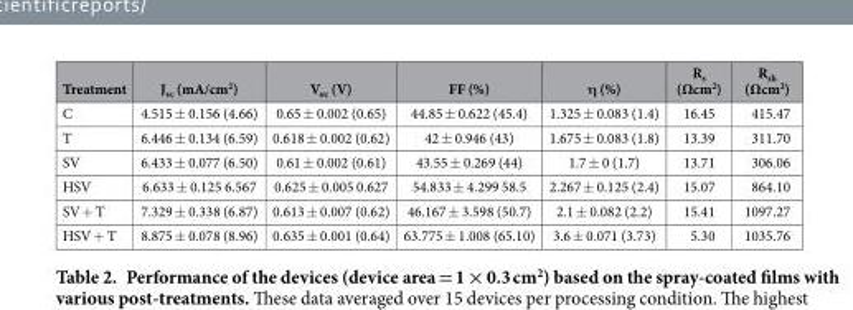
<table><thead><tr><td>Treatment</td><td>J<sub>sc</sub> (mA/cm<sup>2</sup>)</td><td>V<sub>oc</sub> (V)</td><td>FF (%)</td><td>η (%)</td><td>R<sub>s</sub> (Ωcm<sup>2</sup>)</td><td>R<sub>sh</sub> (Ωcm<sup>2</sup>)</td></tr></thead><tbody><tr><td>C</td><td>4.515 ± 0.156 (4.66)</td><td>0.65 ± 0.002 (0.65)</td><td>44.85 ± 0.622 (45.4)</td><td>1.325 ± 0.083 (1.4)</td><td>16.45</td><td>415.47</td></tr><tr><td>T</td><td>6.446 ± 0.134 (6.59)</td><td>0.618 ± 0.002 (0.62)</td><td>42 ± 0.946 (43)</td><td>1.675 ± 0.083 (1.8)</td><td>13.39</td><td>311.70</td></tr><tr><td>SV</td><td>6.433 ± 0.077 (6.50)</td><td>0.61 ± 0.002 (0.61)</td><td>43.55 ± 0.269 (44)</td><td>1.7 ± 0 (1.7)</td><td>13.71</td><td>306.06</td></tr><tr><td>HSV</td><td>6.633 ± 0.125 6.567</td><td>0.625 ± 0.005 0.627</td><td>54.833 ± 4.299 58.5</td><td>2.267 ± 0.125 (2.4)</td><td>15.07</td><td>864.10</td></tr><tr><td>SV + T</td><td>7.329 ± 0.338 (6.87)</td><td>0.613 ± 0.007 (0.62)</td><td>46.167 ± 3.598 (50.7)</td><td>2.1 ± 0.082 (2.2)</td><td>15.41</td><td>1097.27</td></tr><tr><td>HSV + T</td><td>8.875 ± 0.078 (8.96)</td><td>0.635 ± 0.001 (0.64)</td><td>63.775 ± 1.008 (65.10)</td><td>3.6 ± 0.071 (3.73)</td><td>5.30</td><td>1035.76</td></tr></tbody></table>